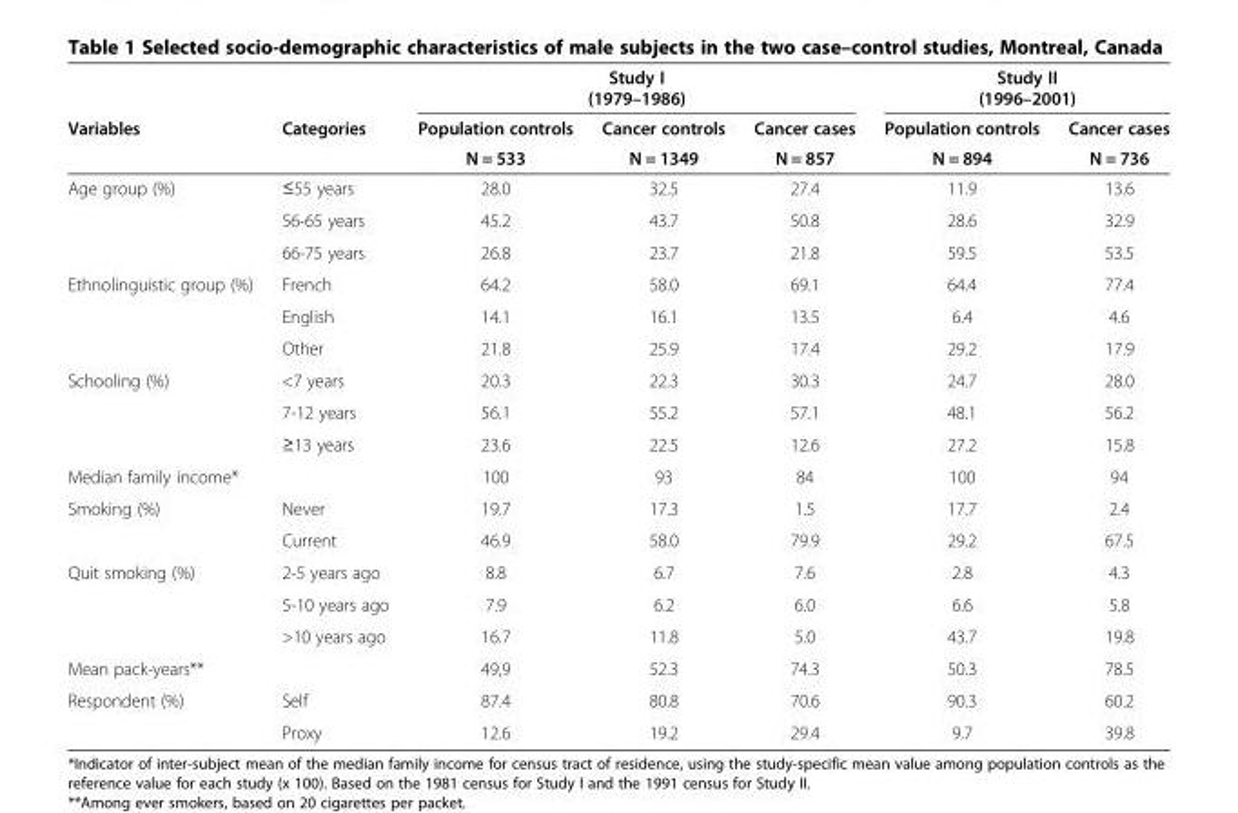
<table><thead><tr><td rowspan="3">Variables</td><td rowspan="3">Categories</td><td colspan="3">Study I (1979–1986)</td><td colspan="2">Study II (1996–2001)</td></tr><tr><td rowspan="2">Population controls N = 533</td><td rowspan="2">Cancer controls N = 1349</td><td rowspan="2">Cancer cases N = 857</td><td rowspan="2">Population controls N = 894</td><td rowspan="2">Cancer cases N = 736</td></tr><tr></tr></thead><tbody><tr><td rowspan="3">Age group (%)</td><td>≤55 years</td><td>28.0</td><td>32.5</td><td>27.4</td><td>11.9</td><td>13.6</td></tr><tr><td>56-65 years</td><td>45.2</td><td>43.7</td><td>50.8</td><td>28.6</td><td>32.9</td></tr><tr><td>66-75 years</td><td>26.8</td><td>23.7</td><td>21.8</td><td>59.5</td><td>53.5</td></tr><tr><td rowspan="3">Ethnolinguistic group (%)</td><td>French</td><td>64.2</td><td>58.0</td><td>69.1</td><td>64.4</td><td>77.4</td></tr><tr><td>English</td><td>14.1</td><td>16.1</td><td>13.5</td><td>6.4</td><td>4.6</td></tr><tr><td>Other</td><td>21.8</td><td>25.9</td><td>17.4</td><td>29.2</td><td>17.9</td></tr><tr><td rowspan="3">Schooling (%)</td><td>&lt;7 years</td><td>20.3</td><td>22.3</td><td>30.3</td><td>24.7</td><td>28.0</td></tr><tr><td>7-12 years</td><td>56.1</td><td>55.2</td><td>57.1</td><td>48.1</td><td>56.2</td></tr><tr><td>≥13 years</td><td>23.6</td><td>22.5</td><td>12.6</td><td>27.2</td><td>15.8</td></tr><tr><td colspan="2">Median family income*</td><td>100</td><td>93</td><td>84</td><td>100</td><td>94</td></tr><tr><td rowspan="2">Smoking (%)</td><td>Never</td><td>19.7</td><td>17.3</td><td>1.5</td><td>17.7</td><td>2.4</td></tr><tr><td>Current</td><td>46.9</td><td>58.0</td><td>79.9</td><td>29.2</td><td>67.5</td></tr><tr><td rowspan="3">Quit smoking (%)</td><td>2-5 years ago</td><td>8.8</td><td>6.7</td><td>7.6</td><td>2.8</td><td>4.3</td></tr><tr><td>5-10 years ago</td><td>7.9</td><td>6.2</td><td>6.0</td><td>6.6</td><td>5.8</td></tr><tr><td>&gt;10 years ago</td><td>16.7</td><td>11.8</td><td>5.0</td><td>43.7</td><td>19.8</td></tr><tr><td colspan="2">Mean pack-years**</td><td>49,9</td><td>52.3</td><td>74.3</td><td>50.3</td><td>78.5</td></tr><tr><td rowspan="2">Respondent (%)</td><td>Self</td><td>87.4</td><td>80.8</td><td>70.6</td><td>90.3</td><td>60.2</td></tr><tr><td>Proxy</td><td>12.6</td><td>19.2</td><td>29.4</td><td>9.7</td><td>39.8</td></tr></tbody></table>